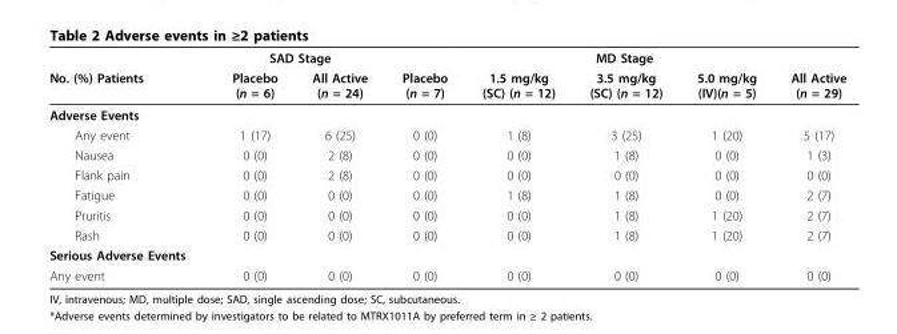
<table><thead><tr><td rowspan="2">No. (%) Patients</td><td colspan="2">SAD Stage</td><td colspan="5">MD Stage</td></tr><tr><td>Placebo (n = 6)</td><td>All Active (n = 24)</td><td>Placebo (n = 7)</td><td>1.5 mg/kg (SC) (n = 12)</td><td>3.5 mg/kg (SC) (n = 12)</td><td>5.0 mg/kg (IV)(n = 5)</td><td>All Active (n = 29)</td></tr></thead><tbody><tr><td colspan="8">Adverse Events</td></tr><tr><td>Any event</td><td>1 (17)</td><td>6 (25)</td><td>0 (0)</td><td>1 (8)</td><td>3 (25)</td><td>1 (20)</td><td>5 (17)</td></tr><tr><td>Nausea</td><td>0 (0)</td><td>2 (8)</td><td>0 (0)</td><td>0 (0)</td><td>1 (8)</td><td>0 (0)</td><td>1 (3)</td></tr><tr><td>Flank pain</td><td>0 (0)</td><td>2 (8)</td><td>0 (0)</td><td>0 (0)</td><td>0 (0)</td><td>0 (0)</td><td>0 (0)</td></tr><tr><td>Fatigue</td><td>0 (0)</td><td>0 (0)</td><td>0 (0)</td><td>1 (8)</td><td>1 (8)</td><td>0 (0)</td><td>2 (7)</td></tr><tr><td>Pruritis</td><td>0 (0)</td><td>0 (0)</td><td>0 (0)</td><td>0 (0)</td><td>1 (8)</td><td>1 (20)</td><td>2 (7)</td></tr><tr><td>Rash</td><td>0 (0)</td><td>0 (0)</td><td>0 (0)</td><td>0 (0)</td><td>1 (8)</td><td>1 (20)</td><td>2 (7)</td></tr><tr><td colspan="8">Serious Adverse Events</td></tr><tr><td>Any event</td><td>0 (0)</td><td>0 (0)</td><td>0 (0)</td><td>0 (0)</td><td>0 (0)</td><td>0 (0)</td><td>0 (0)</td></tr></tbody></table>